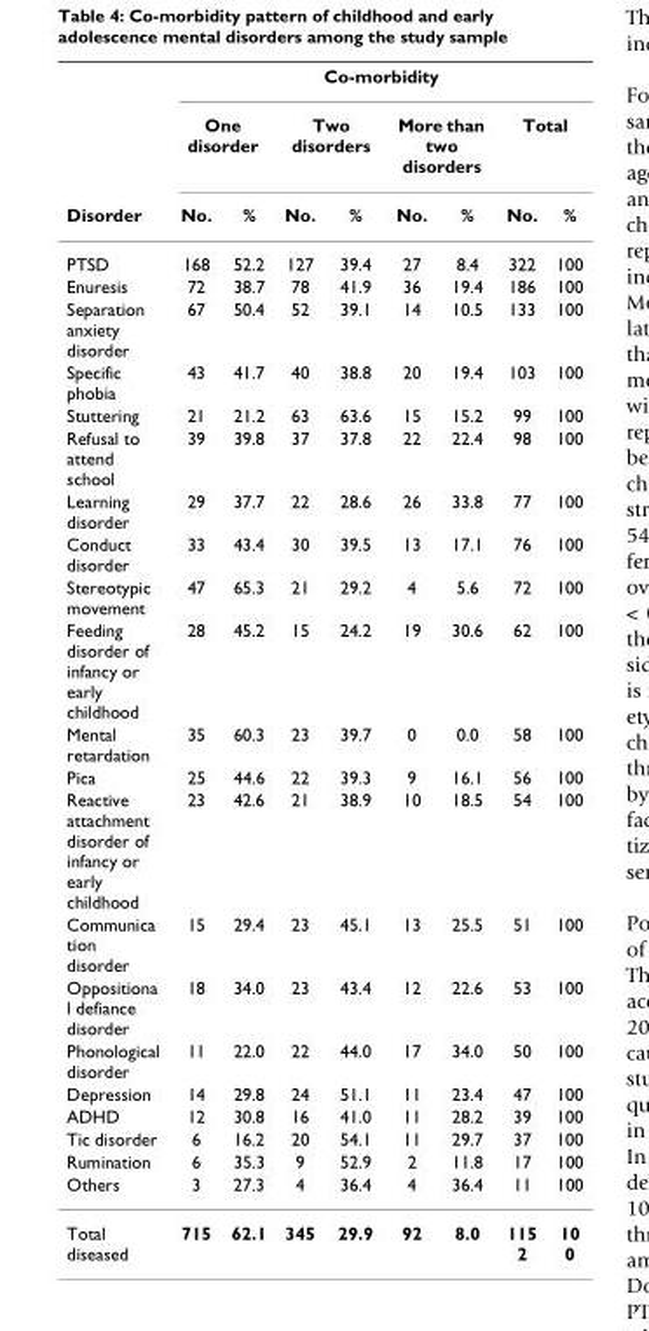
<table><thead><tr><td rowspan="3">Disorder</td><td colspan="8">Co-morbidity</td></tr><tr><td colspan="2">One disorder</td><td colspan="2">Two disorders</td><td colspan="2">More than two disorders</td><td colspan="2">Total</td></tr><tr><td>No.</td><td>%</td><td>No.</td><td>%</td><td>No.</td><td>%</td><td>No.</td><td>%</td></tr></thead><tbody><tr><td>PTSD</td><td>168</td><td>52.2</td><td>127</td><td>39.4</td><td>27</td><td>8.4</td><td>322</td><td>100</td></tr><tr><td>Enuresis</td><td>72</td><td>38.7</td><td>78</td><td>41.9</td><td>36</td><td>19.4</td><td>186</td><td>100</td></tr><tr><td>Separation anxiety disorder</td><td>67</td><td>50.4</td><td>52</td><td>39.1</td><td>14</td><td>10.5</td><td>133</td><td>100</td></tr><tr><td>Specific phobia</td><td>43</td><td>41.7</td><td>40</td><td>38.8</td><td>20</td><td>19.4</td><td>103</td><td>100</td></tr><tr><td>Stuttering</td><td>21</td><td>21.2</td><td>63</td><td>63.6</td><td>15</td><td>15.2</td><td>99</td><td>100</td></tr><tr><td>Refusal to attend school</td><td>39</td><td>39.8</td><td>37</td><td>37.8</td><td>22</td><td>22.4</td><td>98</td><td>100</td></tr><tr><td>Learning disorder</td><td>29</td><td>37.7</td><td>22</td><td>28.6</td><td>26</td><td>33.8</td><td>77</td><td>100</td></tr><tr><td>Conduct disorder</td><td>33</td><td>43.4</td><td>30</td><td>39.5</td><td>13</td><td>17.1</td><td>76</td><td>100</td></tr><tr><td>Stereotypic movement</td><td>47</td><td>65.3</td><td>21</td><td>29.2</td><td>4</td><td>5.6</td><td>72</td><td>100</td></tr><tr><td>Feeding disorder of infancy or early childhood</td><td>28</td><td>45.2</td><td>15</td><td>24.2</td><td>19</td><td>30.6</td><td>62</td><td>100</td></tr><tr><td>Mental retardation</td><td>35</td><td>60.3</td><td>23</td><td>39.7</td><td>0</td><td>0.0</td><td>58</td><td>100</td></tr><tr><td>Pica</td><td>25</td><td>44.6</td><td>22</td><td>39.3</td><td>9</td><td>16.1</td><td>56</td><td>100</td></tr><tr><td>Reactive attachment disorder of infancy or early childhood</td><td>23</td><td>42.6</td><td>21</td><td>38.9</td><td>10</td><td>18.5</td><td>54</td><td>100</td></tr><tr><td>Communica tion disorder</td><td>15</td><td>29.4</td><td>23</td><td>45.1</td><td>13</td><td>25.5</td><td>51</td><td>100</td></tr><tr><td>Oppositiona l defiance disorder</td><td>18</td><td>34.0</td><td>23</td><td>43.4</td><td>12</td><td>22.6</td><td>53</td><td>100</td></tr><tr><td>Phonological disorder</td><td>11</td><td>22.0</td><td>22</td><td>44.0</td><td>17</td><td>34.0</td><td>50</td><td>100</td></tr><tr><td>Depression</td><td>14</td><td>29.8</td><td>24</td><td>51.1</td><td>11</td><td>23.4</td><td>47</td><td>100</td></tr><tr><td>ADHD</td><td>12</td><td>30.8</td><td>16</td><td>41.0</td><td>11</td><td>28.2</td><td>39</td><td>100</td></tr><tr><td>Tic disorder</td><td>6</td><td>16.2</td><td>20</td><td>54.1</td><td>11</td><td>29.7</td><td>37</td><td>100</td></tr><tr><td>Rumination</td><td>6</td><td>35.3</td><td>9</td><td>52.9</td><td>2</td><td>11.8</td><td>17</td><td>100</td></tr><tr><td>Others</td><td>3</td><td>27.3</td><td>4</td><td>36.4</td><td>4</td><td>36.4</td><td>11</td><td>100</td></tr><tr><td>Total diseased</td><td>715</td><td>62.1</td><td>345</td><td>29.9</td><td>92</td><td>8.0</td><td>115 2</td><td>10 0</td></tr></tbody></table>